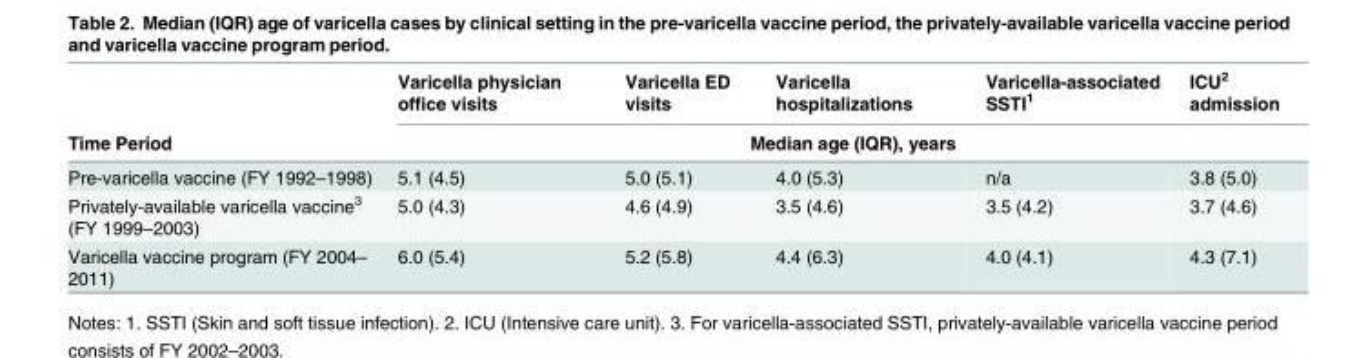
<table><thead><tr><td rowspan="2">Time Period</td><td>Varicella physician office visits</td><td>Varicella ED visits</td><td>Varicella hospitalizations</td><td>Varicella-associated SSTI<sup>1</sup></td><td>ICU<sup>2</sup> admission</td></tr><tr><td colspan="5">Median age (IQR), years</td></tr></thead><tbody><tr><td>Pre-varicella vaccine (FY 1992–1998)</td><td>5.1 (4.5)</td><td>5.0 (5.1)</td><td>4.0 (5.3)</td><td>n/a</td><td>3.8 (5.0)</td></tr><tr><td>Privately-available varicella vaccine<sup>3</sup> (FY 1999–2003)</td><td>5.0 (4.3)</td><td>4.6 (4.9)</td><td>3.5 (4.6)</td><td>3.5 (4.2)</td><td>3.7 (4.6)</td></tr><tr><td>Varicella vaccine program (FY 2004– 2011)</td><td>6.0 (5.4)</td><td>5.2 (5.8)</td><td>4.4 (6.3)</td><td>4.0 (4.1)</td><td>4.3 (7.1)</td></tr></tbody></table>